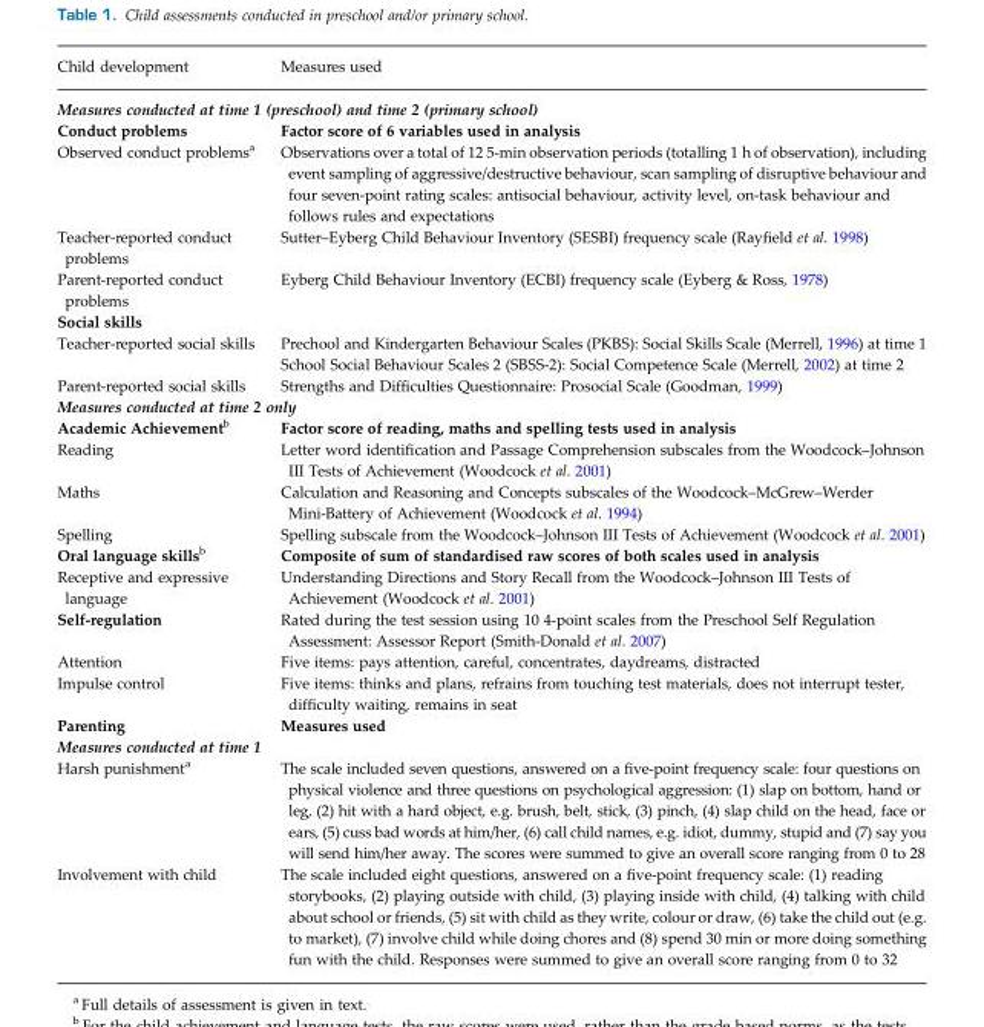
<table><thead><tr><td>Child development</td><td>Measures used</td></tr></thead><tbody><tr><td colspan="2">Measures conducted at time 1 (preschool) and time 2 (primary school)</td></tr><tr><td>Conduct problems</td><td>Factor score of 6 variables used in analysis</td></tr><tr><td>Observed conduct problems<sup>a</sup></td><td>Observations over a total of 12 5-min observation periods (totalling 1 h of observation), including event sampling of aggressive/destructive behaviour, scan sampling of disruptive behaviour and four seven-point rating scales: antisocial behaviour, activity level, on-task behaviour and follows rules and expectations</td></tr><tr><td>Teacher-reported conduct problems</td><td>Sutter–Eyberg Child Behaviour Inventory (SESBI) frequency scale (Rayfield et al. 1998)</td></tr><tr><td>Parent-reported conduct problems</td><td>Eyberg Child Behaviour Inventory (ECBI) frequency scale (Eyberg &amp; Ross, 1978)</td></tr><tr><td colspan="2">Social skills</td></tr><tr><td rowspan="2">Teacher-reported social skills</td><td>Prechool and Kindergarten Behaviour Scales (PKBS): Social Skills Scale (Merrell, 1996) at time 1</td></tr><tr><td>School Social Behaviour Scales 2 (SBSS-2): Social Competence Scale (Merrell, 2002) at time 2</td></tr><tr><td>Parent-reported social skills</td><td>Strengths and Difficulties Questionnaire: Prosocial Scale (Goodman, 1999)</td></tr><tr><td colspan="2">Measures conducted at time 2 only</td></tr><tr><td>Academic Achievement<sup>b</sup></td><td>Factor score of reading, maths and spelling tests used in analysis</td></tr><tr><td>Reading</td><td>Letter word identification and Passage Comprehension subscales from the Woodcock–Johnson III Tests of Achievement (Woodcock et al. 2001)</td></tr><tr><td>Maths</td><td>Calculation and Reasoning and Concepts subscales of the Woodcock–McGrew–Werder Mini-Battery of Achievement (Woodcock et al. 1994)</td></tr><tr><td>Spelling</td><td>Spelling subscale from the Woodcock–Johnson III Tests of Achievement (Woodcock et al. 2001)</td></tr><tr><td>Oral language skills<sup>b</sup></td><td>Composite of sum of standardised raw scores of both scales used in analysis</td></tr><tr><td>Receptive and expressive language</td><td>Understanding Directions and Story Recall from the Woodcock–Johnson III Tests of Achievement (Woodcock et al. 2001)</td></tr><tr><td>Self-regulation</td><td>Rated during the test session using 10 4-point scales from the Preschool Self Regulation Assessment: Assessor Report (Smith-Donald et al. 2007)</td></tr><tr><td>Attention</td><td>Five items: pays attention, careful, concentrates, daydreams, distracted</td></tr><tr><td>Impulse control</td><td>Five items: thinks and plans, refrains from touching test materials, does not interrupt tester, difficulty waiting, remains in seat</td></tr><tr><td>Parenting</td><td>Measures used</td></tr><tr><td colspan="2">Measures conducted at time 1</td></tr><tr><td>Harsh punishment<sup>a</sup></td><td>The scale included seven questions, answered on a five-point frequency scale: four questions on physical violence and three questions on psychological aggression: (1) slap on bottom, hand or leg, (2) hit with a hard object, e.g. brush, belt, stick, (3) pinch, (4) slap child on the head, face or ears, (5) cuss bad words at him/her, (6) call child names, e.g. idiot, dummy, stupid and (7) say you will send him/her away. The scores were summed to give an overall score ranging from 0 to 28</td></tr><tr><td>Involvement with child</td><td>The scale included eight questions, answered on a five-point frequency scale: (1) reading storybooks, (2) playing outside with child, (3) playing inside with child, (4) talking with child about school or friends, (5) sit with child as they write, colour or draw, (6) take the child out (e.g. to market), (7) involve child while doing chores and (8) spend 30 min or more doing something fun with the child. Responses were summed to give an overall score ranging from 0 to 32</td></tr></tbody></table>